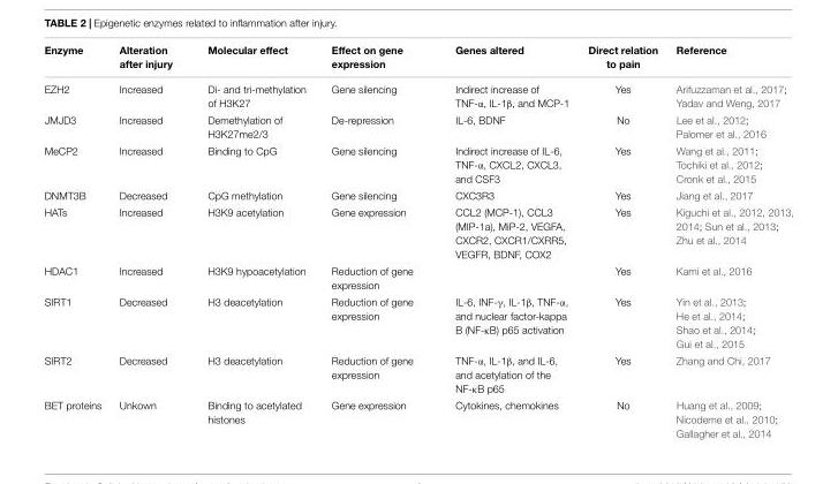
<table><thead><tr><td>Enzyme</td><td>Alteration after injury</td><td>Molecular effect</td><td>Effect on gene expression</td><td>Genes altered</td><td>Direct relation to pain</td><td>Reference</td></tr></thead><tbody><tr><td>EZH2</td><td>Increased</td><td>Di- and tri-methylation of H3K27</td><td>Gene silencing</td><td>Indirect increase of TNF-α, IL-1β, and MCP-1</td><td>Yes</td><td>Arifuzzaman et al., 2017; Yadav and Weng, 2017</td></tr><tr><td>JMJD3</td><td>Increased</td><td>Demethylation of H3K27me2/3</td><td>De-repression</td><td>IL-6, BDNF</td><td>No</td><td>Lee et al., 2012; Palomer et al., 2016</td></tr><tr><td>MeCP2</td><td>Increased</td><td>Binding to CpG</td><td>Gene silencing</td><td>Indirect increase of IL-6, TNF-α, CXCL2, CXCL3, and CSF3</td><td>Yes</td><td>Wang et al., 2011; Tochiki et al., 2012; Cronk et al., 2015</td></tr><tr><td>DNMT3B</td><td>Decreased</td><td>CpG methylation</td><td>Gene silencing</td><td>CXC3R3</td><td>Yes</td><td>Jiang et al., 2017</td></tr><tr><td>HATs</td><td>Increased</td><td>H3K9 acetylation</td><td>Gene expression</td><td>CCL2 (MCP-1), CCL3 (MIP-1a), MiP-2, VEGFA, CXCR2, CXCR1/CXRR5, VEGFR, BDNF, COX2</td><td>Yes</td><td>Kiguchi et al., 2012, 2013, 2014; Sun et al., 2013; Zhu et al., 2014</td></tr><tr><td>HDAC1</td><td>Increased</td><td>H3K9 hypoacetylation</td><td>Reduction of gene expression</td><td></td><td>Yes</td><td>Kami et al., 2016</td></tr><tr><td>SIRT1</td><td>Decreased</td><td>H3 deacetylation</td><td>Reduction of gene expression</td><td>IL-6, INF-γ, IL-1β, TNF-α, and nuclear factor-kappa B (NF-κB) p65 activation</td><td>Yes</td><td>Yin et al., 2013; He et al., 2014; Shao et al., 2014; Gui et al., 2015</td></tr><tr><td>SIRT2</td><td>Decreased</td><td>H3 deacetylation</td><td>Reduction of gene expression</td><td>TNF-α, IL-1β, and IL-6, and acetylation of the NF-κB p65</td><td>Yes</td><td>Zhang and Chi, 2017</td></tr><tr><td>BET proteins</td><td>Unkown</td><td>Binding to acetylated histones</td><td>Gene expression</td><td>Cytokines, chemokines</td><td>No</td><td>Huang et al., 2009; Nicodeme et al., 2010; Gallagher et al., 2014</td></tr></tbody></table>